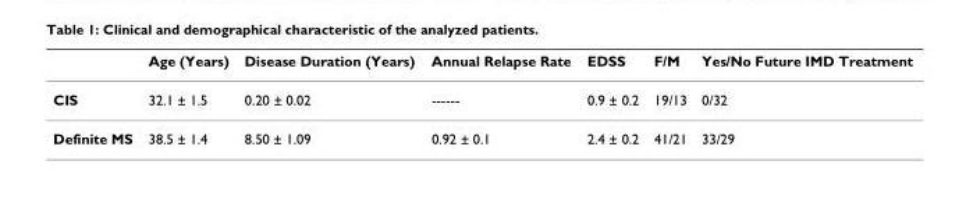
<table><thead><tr><td></td><td>Age (Years)</td><td>Disease Duration (Years)</td><td>Annual Relapse Rate</td><td>EDSS</td><td>F/M</td><td>Yes/No Future IMD Treatment</td></tr></thead><tbody><tr><td>CIS</td><td>32.1 ± 1.5</td><td>0.20 ± 0.02</td><td>------</td><td>0.9 ± 0.2</td><td>19/13</td><td>0/32</td></tr><tr><td>Definite MS</td><td>38.5 ± 1.4</td><td>8.50 ± 1.09</td><td>0.92 ± 0.1</td><td>2.4 ± 0.2</td><td>41/21</td><td>33/29</td></tr></tbody></table>